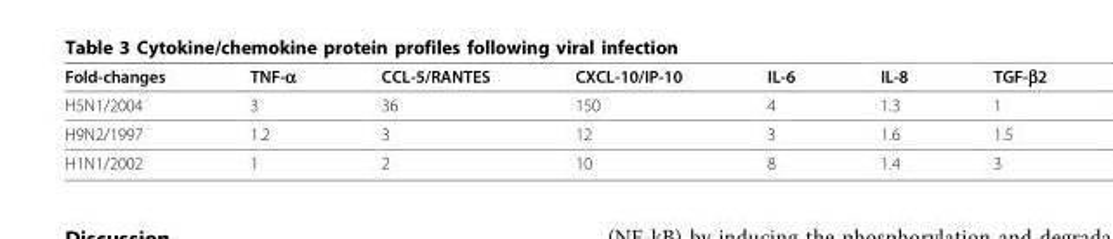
<table><thead><tr><td>Fold-changes</td><td>TNF-α</td><td>CCL-5/RANTES</td><td>CXCL-10/IP-10</td><td>IL-6</td><td>IL-8</td><td>TGF-β2</td></tr></thead><tbody><tr><td>H5N1/2004</td><td>3</td><td>36</td><td>150</td><td>4</td><td>1.3</td><td>1</td></tr><tr><td>H9N2/1997</td><td>1.2</td><td>3</td><td>12</td><td>3</td><td>1.6</td><td>1.5</td></tr><tr><td>H1N1/2002</td><td>1</td><td>2</td><td>10</td><td>8</td><td>1.4</td><td>3</td></tr></tbody></table>